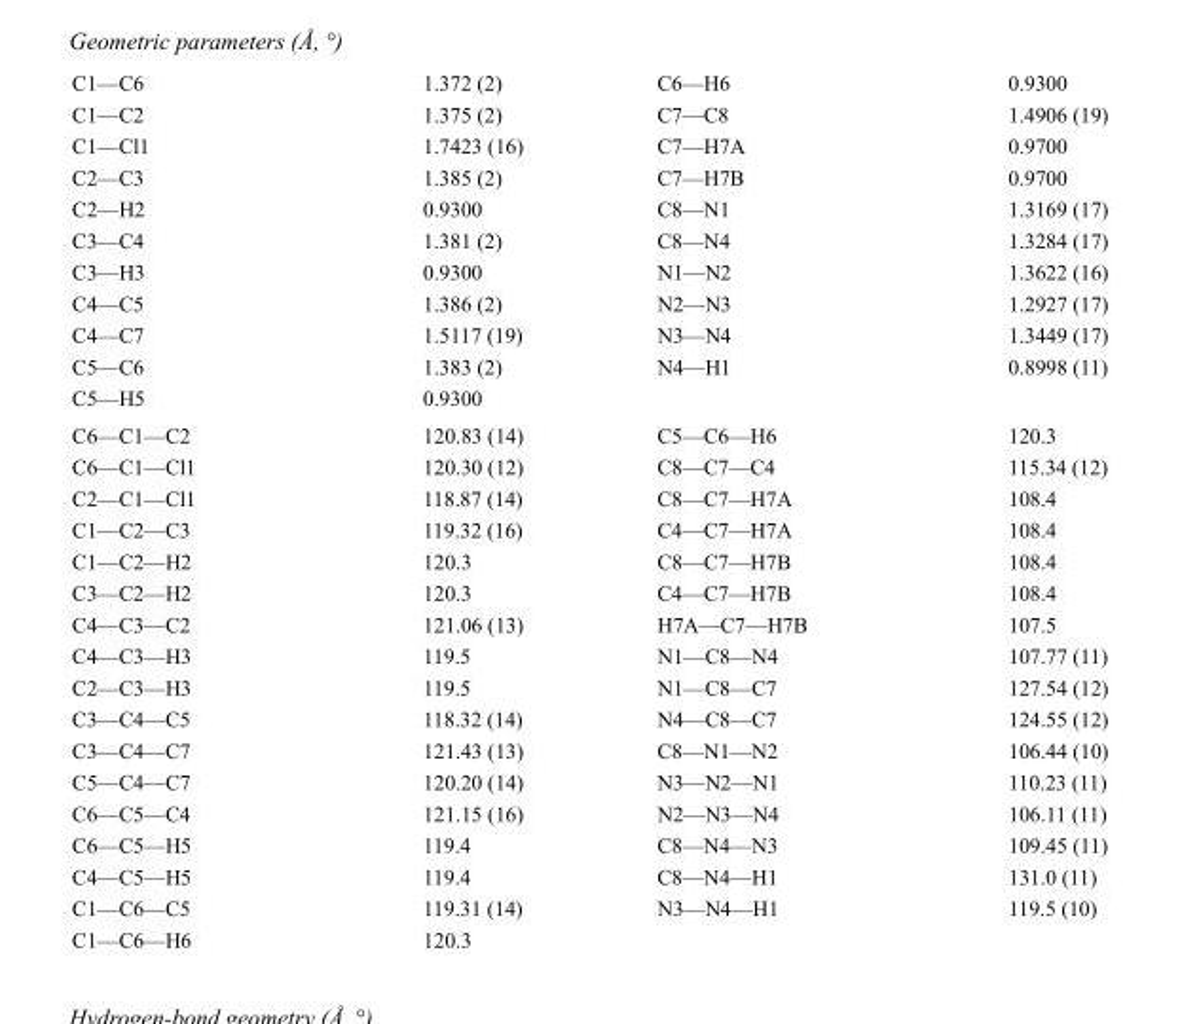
<table><tbody><tr><td>C1—C6</td><td>1.372 (2)</td><td>C6—H6</td><td>0.9300</td></tr><tr><td>C1—C2</td><td>1.375 (2)</td><td>C7—C8</td><td>1.4906 (19)</td></tr><tr><td>C1—Cl1</td><td>1.7423 (16)</td><td>C7—H7A</td><td>0.9700</td></tr><tr><td>C2—C3</td><td>1.385 (2)</td><td>C7—H7B</td><td>0.9700</td></tr><tr><td>C2—H2</td><td>0.9300</td><td>C8—N1</td><td>1.3169 (17)</td></tr><tr><td>C3—C4</td><td>1.381 (2)</td><td>C8—N4</td><td>1.3284 (17)</td></tr><tr><td>C3—H3</td><td>0.9300</td><td>N1—N2</td><td>1.3622 (16)</td></tr><tr><td>C4—C5</td><td>1.386 (2)</td><td>N2—N3</td><td>1.2927 (17)</td></tr><tr><td>C4—C7</td><td>1.5117 (19)</td><td>N3—N4</td><td>1.3449 (17)</td></tr><tr><td>C5—C6</td><td>1.383 (2)</td><td>N4—H1</td><td>0.8998 (11)</td></tr><tr><td>C5—H5</td><td>0.9300</td><td></td><td></td></tr><tr><td>C6—C1—C2</td><td>120.83 (14)</td><td>C5—C6—H6</td><td>120.3</td></tr><tr><td>C6—C1—Cl1</td><td>120.30 (12)</td><td>C8—C7—C4</td><td>115.34 (12)</td></tr><tr><td>C2—C1—Cl1</td><td>118.87 (14)</td><td>C8—C7—H7A</td><td>108.4</td></tr><tr><td>C1—C2—C3</td><td>119.32 (16)</td><td>C4—C7—H7A</td><td>108.4</td></tr><tr><td>C1—C2—H2</td><td>120.3</td><td>C8—C7—H7B</td><td>108.4</td></tr><tr><td>C3—C2—H2</td><td>120.3</td><td>C4—C7—H7B</td><td>108.4</td></tr><tr><td>C4—C3—C2</td><td>121.06 (13)</td><td>H7A—C7—H7B</td><td>107.5</td></tr><tr><td>C4—C3—H3</td><td>119.5</td><td>N1—C8—N4</td><td>107.77 (11)</td></tr><tr><td>C2—C3—H3</td><td>119.5</td><td>N1—C8—C7</td><td>127.54 (12)</td></tr><tr><td>C3—C4—C5</td><td>118.32 (14)</td><td>N4—C8—C7</td><td>124.55 (12)</td></tr><tr><td>C3—C4—C7</td><td>121.43 (13)</td><td>C8—N1—N2</td><td>106.44 (10)</td></tr><tr><td>C5—C4—C7</td><td>120.20 (14)</td><td>N3—N2—N1</td><td>110.23 (11)</td></tr><tr><td>C6—C5—C4</td><td>121.15 (16)</td><td>N2—N3—N4</td><td>106.11 (11)</td></tr><tr><td>C6—C5—H5</td><td>119.4</td><td>C8—N4—N3</td><td>109.45 (11)</td></tr><tr><td>C4—C5—H5</td><td>119.4</td><td>C8—N4—H1</td><td>131.0 (11)</td></tr><tr><td>C1—C6—C5</td><td>119.31 (14)</td><td>N3—N4—H1</td><td>119.5 (10)</td></tr><tr><td>C1—C6—H6</td><td>120.3</td><td></td><td></td></tr></tbody></table>